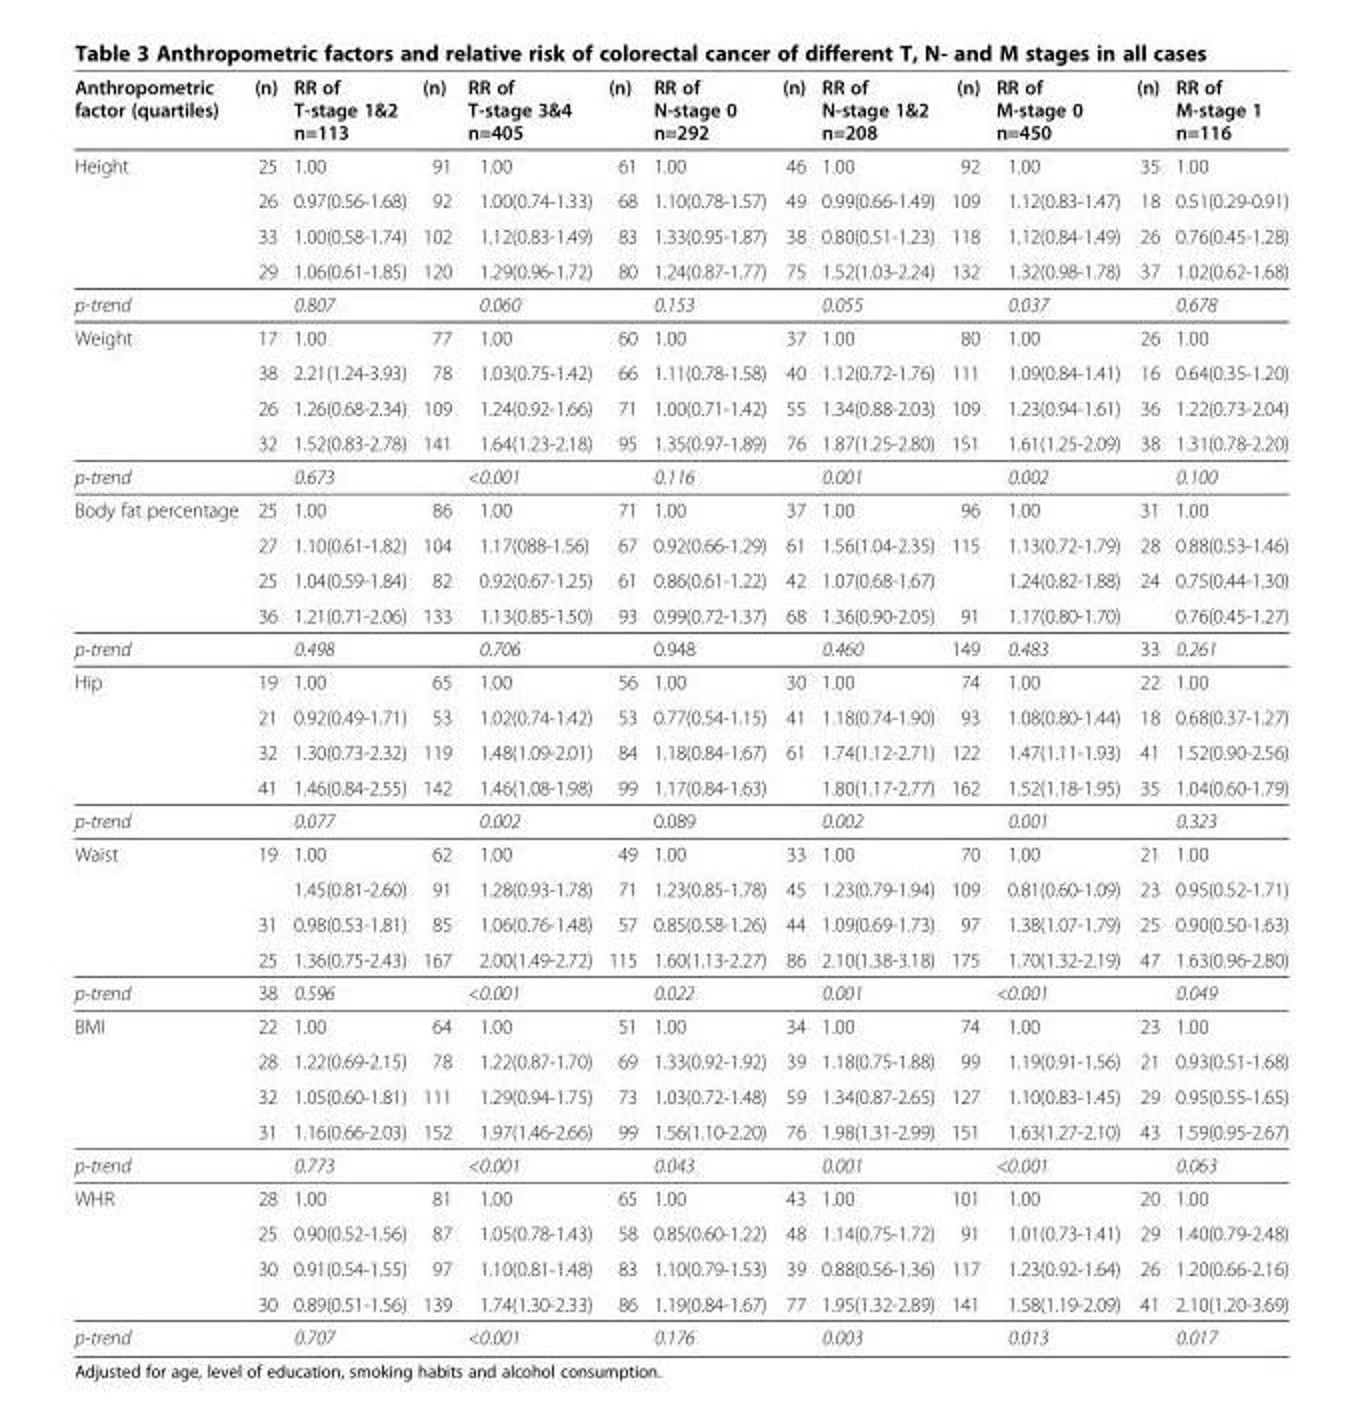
<table><thead><tr><td>Anthropometric factor (quartiles)</td><td>(n)</td><td>RR of T-stage 1&amp;2 n=113</td><td>(n)</td><td>RR of T-stage 3&amp;4 n=405</td><td>(n)</td><td>RR of N-stage 0 n=292</td><td>(n)</td><td>RR of N-stage 1&amp;2 n=208</td><td>(n)</td><td>RR of M-stage 0 n=450</td><td>(n)</td><td>RR of M-stage 1 n=116</td></tr></thead><tbody><tr><td rowspan="4">Height</td><td>25</td><td>1.00</td><td>91</td><td>1.00</td><td>61</td><td>1.00</td><td>46</td><td>1.00</td><td>92</td><td>1.00</td><td>35</td><td>1.00</td></tr><tr><td>26</td><td>0.97(0.56-1.68)</td><td>92</td><td>1.00(0.74-1.33)</td><td>68</td><td>1.10(0.78-1.57)</td><td>49</td><td>0.99(0.66-1.49)</td><td>109</td><td>1.12(0.83-1.47)</td><td>18</td><td>0.51(0.29-0.91)</td></tr><tr><td>33</td><td>1.00(0.58-1.74)</td><td>102</td><td>1.12(0.83-1.49)</td><td>83</td><td>1.33(0.95-1.87)</td><td>38</td><td>0.80(0.51-1.23)</td><td>118</td><td>1.12(0.84-1.49)</td><td>26</td><td>0.76(0.45-1.28)</td></tr><tr><td>29</td><td>1.06(0.61-1.85)</td><td>120</td><td>1.29(0.96-1.72)</td><td>80</td><td>1.24(0.87-1.77)</td><td>75</td><td>1.52(1.03-2.24)</td><td>132</td><td>1.32(0.98-1.78)</td><td>37</td><td>1.02(0.62-1.68)</td></tr><tr><td>p-trend</td><td></td><td>0.807</td><td></td><td>0.060</td><td></td><td>0.153</td><td></td><td>0.055</td><td></td><td>0.037</td><td></td><td>0.678</td></tr><tr><td rowspan="4">Weight</td><td>17</td><td>1.00</td><td>77</td><td>1.00</td><td>60</td><td>1.00</td><td>37</td><td>1.00</td><td>80</td><td>1.00</td><td>26</td><td>1.00</td></tr><tr><td>38</td><td>2.21(1.24-3.93)</td><td>78</td><td>1.03(0.75-1.42)</td><td>66</td><td>1.11(0.78-1.58)</td><td>40</td><td>1.12(0.72-1.76)</td><td>111</td><td>1.09(0.84-1.41)</td><td>16</td><td>0.64(0.35-1.20)</td></tr><tr><td>26</td><td>1.26(0.68-2.34)</td><td>109</td><td>1.24(0.92-1.66)</td><td>71</td><td>1.00(0.71-1.42)</td><td>55</td><td>1.34(0.88-2.03)</td><td>109</td><td>1.23(0.94-1.61)</td><td>36</td><td>1.22(0.73-2.04)</td></tr><tr><td>32</td><td>1.52(0.83-2.78)</td><td>141</td><td>1.64(1.23-2.18)</td><td>95</td><td>1.35(0.97-1.89)</td><td>76</td><td>1.87(1.25-2.80)</td><td>151</td><td>1.61(1.25-2.09)</td><td>38</td><td>1.31(0.78-2.20)</td></tr><tr><td>p-trend</td><td></td><td>0.673</td><td></td><td>&lt;0.001</td><td></td><td>0.116</td><td></td><td>0.001</td><td></td><td>0.002</td><td></td><td>0.100</td></tr><tr><td rowspan="4">Body fat percentage</td><td>25</td><td>1.00</td><td>86</td><td>1.00</td><td>71</td><td>1.00</td><td>37</td><td>1.00</td><td>96</td><td>1.00</td><td>31</td><td>1.00</td></tr><tr><td>27</td><td>1.10(0.61-1.82)</td><td>104</td><td>1.17(088-1.56)</td><td>67</td><td>0.92(0.66-1.29)</td><td>61</td><td>1.56(1.04-2.35)</td><td>115</td><td>1.13(0.72-1.79)</td><td>28</td><td>0.88(0.53-1.46)</td></tr><tr><td>25</td><td>1.04(0.59-1.84)</td><td>82</td><td>0.92(0.67-1.25)</td><td>61</td><td>0.86(0.61-1.22)</td><td>42</td><td>1.07(0.68-1.67)</td><td></td><td>1.24(0.82-1.88)</td><td>24</td><td>0.75(0.44-1.30)</td></tr><tr><td>36</td><td>1.21(0.71-2.06)</td><td>133</td><td>1.13(0.85-1.50)</td><td>93</td><td>0.99(0.72-1.37)</td><td>68</td><td>1.36(0.90-2.05)</td><td>91</td><td>1.17(0.80-1.70)</td><td></td><td>0.76(0.45-1.27)</td></tr><tr><td>p-trend</td><td></td><td>0.498</td><td></td><td>0.706</td><td></td><td>0.948</td><td></td><td>0.460</td><td>149</td><td>0.483</td><td>33</td><td>0.261</td></tr><tr><td rowspan="4">Hip</td><td>19</td><td>1.00</td><td>65</td><td>1.00</td><td>56</td><td>1.00</td><td>30</td><td>1.00</td><td>74</td><td>1.00</td><td>22</td><td>1.00</td></tr><tr><td>21</td><td>0.92(0.49-1.71)</td><td>53</td><td>1.02(0.74-1.42)</td><td>53</td><td>0.77(0.54-1.15)</td><td>41</td><td>1.18(0.74-1.90)</td><td>93</td><td>1.08(0.80-1.44)</td><td>18</td><td>0.68(0.37-1.27)</td></tr><tr><td>32</td><td>1.30(0.73-2.32)</td><td>119</td><td>1.48(1.09-2.01)</td><td>84</td><td>1.18(0.84-1.67)</td><td>61</td><td>1.74(1.12-2.71)</td><td>122</td><td>1.47(1.11-1.93)</td><td>41</td><td>1.52(0.90-2.56)</td></tr><tr><td>41</td><td>1.46(0.84-2.55)</td><td>142</td><td>1.46(1.08-1.98)</td><td>99</td><td>1.17(0.84-1.63)</td><td></td><td>1.80(1.17-2.77)</td><td>162</td><td>1.52(1.18-1.95)</td><td>35</td><td>1.04(0.60-1.79)</td></tr><tr><td>p-trend</td><td></td><td>0.077</td><td></td><td>0.002</td><td></td><td>0.089</td><td></td><td>0.002</td><td></td><td>0.001</td><td></td><td>0.323</td></tr><tr><td rowspan="4">Waist</td><td>19</td><td>1.00</td><td>62</td><td>1.00</td><td>49</td><td>1.00</td><td>33</td><td>1.00</td><td>70</td><td>1.00</td><td>21</td><td>1.00</td></tr><tr><td></td><td>1.45(0.81-2.60)</td><td>91</td><td>1.28(0.93-1.78)</td><td>71</td><td>1.23(0.85-1.78)</td><td>45</td><td>1.23(0.79-1.94)</td><td>109</td><td>0.81(0.60-1.09)</td><td>23</td><td>0.95(0.52-1.71)</td></tr><tr><td>31</td><td>0.98(0.53-1.81)</td><td>85</td><td>1.06(0.76-1.48)</td><td>57</td><td>0.85(0.58-1.26)</td><td>44</td><td>1.09(0.69-1.73)</td><td>97</td><td>1.38(1.07-1.79)</td><td>25</td><td>0.90(0.50-1.63)</td></tr><tr><td>25</td><td>1.36(0.75-2.43)</td><td>167</td><td>2.00(1.49-2.72)</td><td>115</td><td>1.60(1.13-2.27)</td><td>86</td><td>2.10(1.38-3.18)</td><td>175</td><td>1.70(1.32-2.19)</td><td>47</td><td>1.63(0.96-2.80)</td></tr><tr><td>p-trend</td><td>38</td><td>0.596</td><td></td><td>&lt;0.001</td><td></td><td>0.022</td><td></td><td>0.001</td><td></td><td>&lt;0.001</td><td></td><td>0.049</td></tr><tr><td rowspan="4">BMI</td><td>22</td><td>1.00</td><td>64</td><td>1.00</td><td>51</td><td>1.00</td><td>34</td><td>1.00</td><td>74</td><td>1.00</td><td>23</td><td>1.00</td></tr><tr><td>28</td><td>1.22(0.69-2.15)</td><td>78</td><td>1.22(0.87-1.70)</td><td>69</td><td>1.33(0.92-1.92)</td><td>39</td><td>1.18(0.75-1.88)</td><td>99</td><td>1.19(0.91-1.56)</td><td>21</td><td>0.93(0.51-1.68)</td></tr><tr><td>32</td><td>1.05(0.60-1.81)</td><td>111</td><td>1.29(0.94-1.75)</td><td>73</td><td>1.03(0.72-1.48)</td><td>59</td><td>1.34(0.87-2.65)</td><td>127</td><td>1.10(0.83-1.45)</td><td>29</td><td>0.95(0.55-1.65)</td></tr><tr><td>31</td><td>1.16(0.66-2.03)</td><td>152</td><td>1.97(1.46-2.66)</td><td>99</td><td>1.56(1.10-2.20)</td><td>76</td><td>1.98(1.31-2.99)</td><td>151</td><td>1.63(1.27-2.10)</td><td>43</td><td>1.59(0.95-2.67)</td></tr><tr><td>p-trend</td><td></td><td>0.773</td><td></td><td>&lt;0.001</td><td></td><td>0.043</td><td></td><td>0.001</td><td></td><td>&lt;0.001</td><td></td><td>0.063</td></tr><tr><td rowspan="4">WHR</td><td>28</td><td>1.00</td><td>81</td><td>1.00</td><td>65</td><td>1.00</td><td>43</td><td>1.00</td><td>101</td><td>1.00</td><td>20</td><td>1.00</td></tr><tr><td>25</td><td>0.90(0.52-1.56)</td><td>87</td><td>1.05(0.78-1.43)</td><td>58</td><td>0.85(0.60-1.22)</td><td>48</td><td>1.14(0.75-1.72)</td><td>91</td><td>1.01(0.73-1.41)</td><td>29</td><td>1.40(0.79-2.48)</td></tr><tr><td>30</td><td>0.91(0.54-1.55)</td><td>97</td><td>1.10(0.81-1.48)</td><td>83</td><td>1.10(0.79-1.53)</td><td>39</td><td>0.88(0.56-1.36)</td><td>117</td><td>1.23(0.92-1.64)</td><td>26</td><td>1.20(0.66-2.16)</td></tr><tr><td>30</td><td>0.89(0.51-1.56)</td><td>139</td><td>1.74(1.30-2.33)</td><td>86</td><td>1.19(0.84-1.67)</td><td>77</td><td>1.95(1.32-2.89)</td><td>141</td><td>1.58(1.19-2.09)</td><td>41</td><td>2.10(1.20-3.69)</td></tr><tr><td>p-trend</td><td></td><td>0.707</td><td></td><td>&lt;0.001</td><td></td><td>0.176</td><td></td><td>0.003</td><td></td><td>0.013</td><td></td><td>0.017</td></tr></tbody></table>